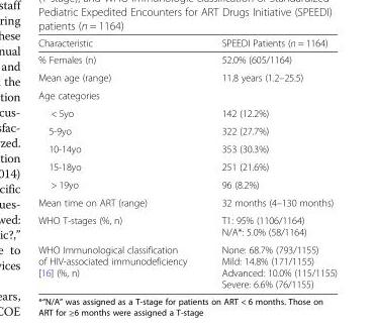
<table><thead><tr><td>Characteristic</td><td>SPEEDI Patients (n = 1164)</td></tr></thead><tbody><tr><td>% Females (n)</td><td>52.0% (605/1164)</td></tr><tr><td>Mean age (range)</td><td>11.8 years (1.2–25.5)</td></tr><tr><td colspan="2">Age categories</td></tr><tr><td>&lt; 5yo</td><td>142 (12.2%)</td></tr><tr><td>5-9yo</td><td>322 (27.7%)</td></tr><tr><td>10-14yo</td><td>353 (30.3%)</td></tr><tr><td>15-18yo</td><td>251 (21.6%)</td></tr><tr><td>&gt; 19yo</td><td>96 (8.2%)</td></tr><tr><td>Mean time on ART (range)</td><td>32 months (4–130 months)</td></tr><tr><td>WHO T-stages (%, n)</td><td>T1: 95% (1106/1164) N/A*: 5.0% (58/1164)</td></tr><tr><td>WHO Immunological classification of HIV-associated immunodeficiency [16] (%, n)</td><td>None: 68.7% (793/1155) Mild: 14.8% (171/1155) Advanced: 10.0% (115/1155) Severe: 6.6% (76/1155)</td></tr></tbody></table>